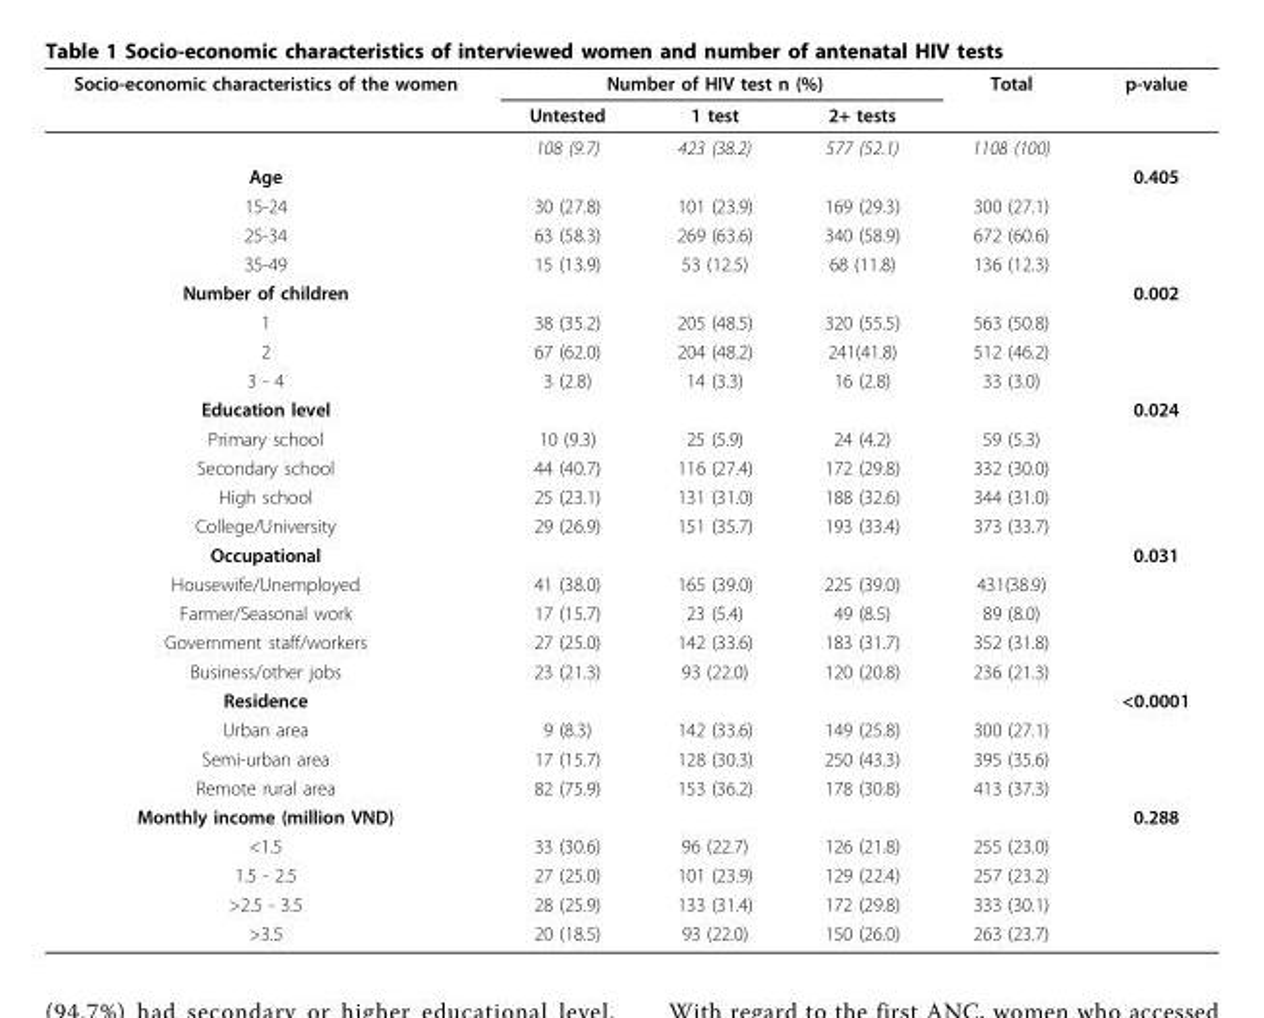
<table><thead><tr><td rowspan="2">Socio-economic characteristics of the women</td><td colspan="3">Number of HIV test n (%)</td><td rowspan="2">Total</td><td rowspan="2">p-value</td></tr><tr><td>Untested</td><td>1 test</td><td>2+ tests</td></tr></thead><tbody><tr><td></td><td>108 (9.7)</td><td>423 (38.2)</td><td>577 (52.1)</td><td>1108 (100)</td><td></td></tr><tr><td>Age</td><td></td><td></td><td></td><td></td><td>0.405</td></tr><tr><td>15-24</td><td>30 (27.8)</td><td>101 (23.9)</td><td>169 (29.3)</td><td>300 (27.1)</td><td></td></tr><tr><td>25-34</td><td>63 (58.3)</td><td>269 (63.6)</td><td>340 (58.9)</td><td>672 (60.6)</td><td></td></tr><tr><td>35-49</td><td>15 (13.9)</td><td>53 (12.5)</td><td>68 (11.8)</td><td>136 (12.3)</td><td></td></tr><tr><td>Number of children</td><td></td><td></td><td></td><td></td><td>0.002</td></tr><tr><td>1</td><td>38 (35.2)</td><td>205 (48.5)</td><td>320 (55.5)</td><td>563 (50.8)</td><td></td></tr><tr><td>2</td><td>67 (62.0)</td><td>204 (48.2)</td><td>241(41.8)</td><td>512 (46.2)</td><td></td></tr><tr><td>3 - 4</td><td>3 (2.8)</td><td>14 (3.3)</td><td>16 (2.8)</td><td>33 (3.0)</td><td></td></tr><tr><td>Education level</td><td></td><td></td><td></td><td></td><td>0.024</td></tr><tr><td>Primary school</td><td>10 (9.3)</td><td>25 (5.9)</td><td>24 (4.2)</td><td>59 (5.3)</td><td></td></tr><tr><td>Secondary school</td><td>44 (40.7)</td><td>116 (27.4)</td><td>172 (29.8)</td><td>332 (30.0)</td><td></td></tr><tr><td>High school</td><td>25 (23.1)</td><td>131 (31.0)</td><td>188 (32.6)</td><td>344 (31.0)</td><td></td></tr><tr><td>College/University</td><td>29 (26.9)</td><td>151 (35.7)</td><td>193 (33.4)</td><td>373 (33.7)</td><td></td></tr><tr><td>Occupational</td><td></td><td></td><td></td><td></td><td>0.031</td></tr><tr><td>Housewife/Unemployed</td><td>41 (38.0)</td><td>165 (39.0)</td><td>225 (39.0)</td><td>431(38.9)</td><td></td></tr><tr><td>Farmer/Seasonal work</td><td>17 (15.7)</td><td>23 (5.4)</td><td>49 (8.5)</td><td>89 (8.0)</td><td></td></tr><tr><td>Government staff/workers</td><td>27 (25.0)</td><td>142 (33.6)</td><td>183 (31.7)</td><td>352 (31.8)</td><td></td></tr><tr><td>Business/other jobs</td><td>23 (21.3)</td><td>93 (22.0)</td><td>120 (20.8)</td><td>236 (21.3)</td><td></td></tr><tr><td>Residence</td><td></td><td></td><td></td><td></td><td>&lt;0.0001</td></tr><tr><td>Urban area</td><td>9 (8.3)</td><td>142 (33.6)</td><td>149 (25.8)</td><td>300 (27.1)</td><td></td></tr><tr><td>Semi-urban area</td><td>17 (15.7)</td><td>128 (30.3)</td><td>250 (43.3)</td><td>395 (35.6)</td><td></td></tr><tr><td>Remote rural area</td><td>82 (75.9)</td><td>153 (36.2)</td><td>178 (30.8)</td><td>413 (37.3)</td><td></td></tr><tr><td>Monthly income (million VND)</td><td></td><td></td><td></td><td></td><td>0.288</td></tr><tr><td>&lt;1.5</td><td>33 (30.6)</td><td>96 (22.7)</td><td>126 (21.8)</td><td>255 (23.0)</td><td></td></tr><tr><td>1.5 - 2.5</td><td>27 (25.0)</td><td>101 (23.9)</td><td>129 (22.4)</td><td>257 (23.2)</td><td></td></tr><tr><td>&gt;2.5 - 3.5</td><td>28 (25.9)</td><td>133 (31.4)</td><td>172 (29.8)</td><td>333 (30.1)</td><td></td></tr><tr><td>&gt;3.5</td><td>20 (18.5)</td><td>93 (22.0)</td><td>150 (26.0)</td><td>263 (23.7)</td><td></td></tr></tbody></table>